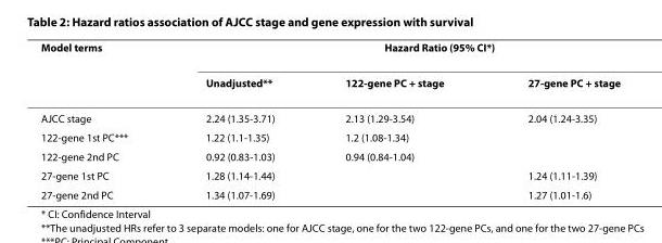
<table><thead><tr><td rowspan="2">Model terms</td><td colspan="3">Hazard Ratio (95% CI*)</td></tr><tr><td>Unadjusted**</td><td>122-gene PC + stage</td><td>27-gene PC + stage</td></tr></thead><tbody><tr><td>AJCC stage</td><td>2.24 (1.35-3.71)</td><td>2.13 (1.29-3.54)</td><td>2.04 (1.24-3.35)</td></tr><tr><td>122-gene 1st PC***</td><td>1.22 (1.1-1.35)</td><td>1.2 (1.08-1.34)</td><td></td></tr><tr><td>122-gene 2nd PC</td><td>0.92 (0.83-1.03)</td><td>0.94 (0.84-1.04)</td><td></td></tr><tr><td>27-gene 1st PC</td><td>1.28 (1.14-1.44)</td><td></td><td>1.24 (1.11-1.39)</td></tr><tr><td>27-gene 2nd PC</td><td>1.34 (1.07-1.69)</td><td></td><td>1.27 (1.01-1.6)</td></tr></tbody></table>